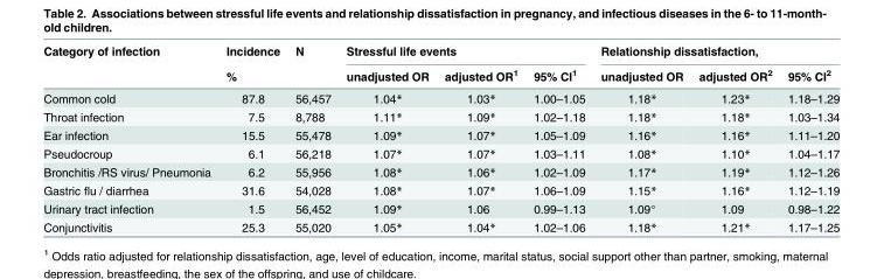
<table><thead><tr><td rowspan="2">Category of infection</td><td rowspan="2">Incidence %</td><td rowspan="2">N</td><td colspan="3">Stressful life events</td><td colspan="3">Relationship dissatisfaction,</td></tr><tr><td>unadjusted OR</td><td>adjusted OR<sup>1</sup></td><td>95% CI<sup>1</sup></td><td>unadjusted OR</td><td>adjusted OR<sup>2</sup></td><td>95% CI<sup>2</sup></td></tr></thead><tbody><tr><td>Common cold</td><td>87.8</td><td>56,457</td><td>1.04*</td><td>1.03*</td><td>1.00–1.05</td><td>1.18*</td><td>1.23*</td><td>1.18–1.29</td></tr><tr><td>Throat infection</td><td>7.5</td><td>8,788</td><td>1.11*</td><td>1.09*</td><td>1.02–1.18</td><td>1.18*</td><td>1.18*</td><td>1.03–1.34</td></tr><tr><td>Ear infection</td><td>15.5</td><td>55,478</td><td>1.09*</td><td>1.07*</td><td>1.05–1.09</td><td>1.16*</td><td>1.16*</td><td>1.11–1.20</td></tr><tr><td>Pseudocroup</td><td>6.1</td><td>56,218</td><td>1.07*</td><td>1.07*</td><td>1.03–1.11</td><td>1.08*</td><td>1.10*</td><td>1.04–1.17</td></tr><tr><td>Bronchitis /RS virus/ Pneumonia</td><td>6.2</td><td>55,956</td><td>1.08*</td><td>1.06*</td><td>1.02–1.09</td><td>1.17*</td><td>1.19*</td><td>1.12–1.26</td></tr><tr><td>Gastric flu / diarrhea</td><td>31.6</td><td>54,028</td><td>1.08*</td><td>1.07*</td><td>1.06–1.09</td><td>1.15*</td><td>1.16*</td><td>1.12–1.19</td></tr><tr><td>Urinary tract infection</td><td>1.5</td><td>56,452</td><td>1.09*</td><td>1.06</td><td>0.99–1.13</td><td>1.09°</td><td>1.09</td><td>0.98–1.22</td></tr><tr><td>Conjunctivitis</td><td>25.3</td><td>55,020</td><td>1.05*</td><td>1.04*</td><td>1.02–1.06</td><td>1.18*</td><td>1.21*</td><td>1.17–1.25</td></tr></tbody></table>